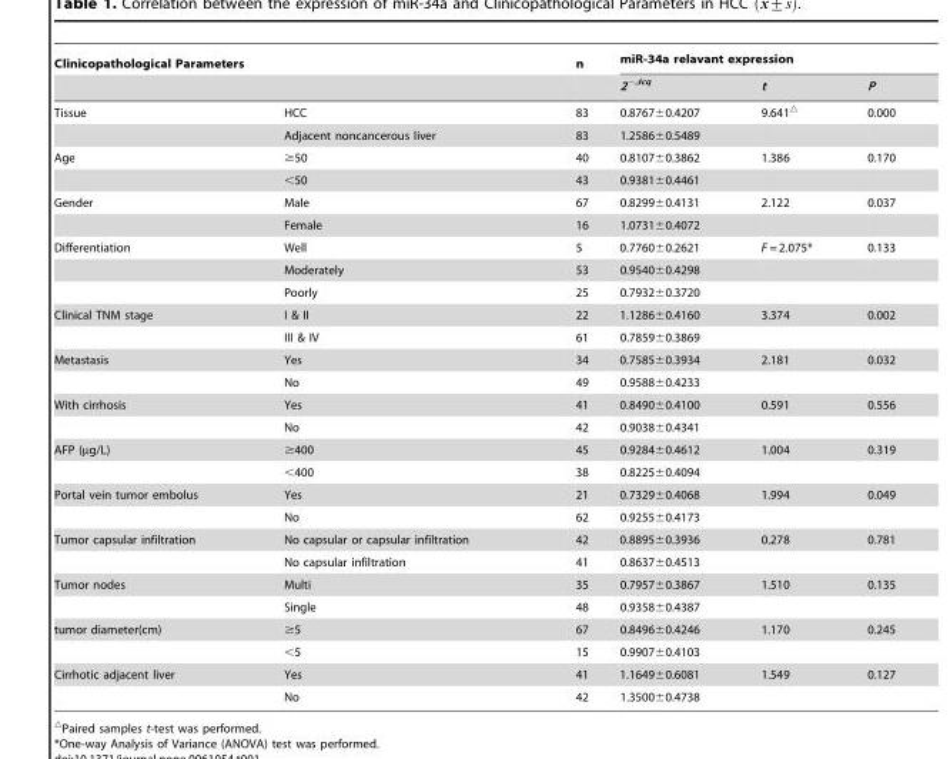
<table><thead><tr><td colspan="2">Clinicopathological Parameters</td><td rowspan="2">n</td><td colspan="3">miR-34a relavant expression</td></tr><tr><td></td><td></td><td>2<sup>−Δcq</sup></td><td>t</td><td>P</td></tr></thead><tbody><tr><td rowspan="2">Tissue</td><td>HCC</td><td>83</td><td>0.8767±0.4207</td><td>9.641▵</td><td>0.000</td></tr><tr><td>Adjacent noncancerous liver</td><td>83</td><td>1.2586±0.5489</td><td></td><td></td></tr><tr><td rowspan="2">Age</td><td>≥50</td><td>40</td><td>0.8107±0.3862</td><td>1.386</td><td>0.170</td></tr><tr><td>&lt;50</td><td>43</td><td>0.9381±0.4461</td><td></td><td></td></tr><tr><td rowspan="2">Gender</td><td>Male</td><td>67</td><td>0.8299±0.4131</td><td>2.122</td><td>0.037</td></tr><tr><td>Female</td><td>16</td><td>1.0731±0.4072</td><td></td><td></td></tr><tr><td rowspan="3">Differentiation</td><td>Well</td><td>5</td><td>0.7760±0.2621</td><td>F = 2.075*</td><td>0.133</td></tr><tr><td>Moderately</td><td>53</td><td>0.9540±0.4298</td><td></td><td></td></tr><tr><td>Poorly</td><td>25</td><td>0.7932±0.3720</td><td></td><td></td></tr><tr><td rowspan="2">Clinical TNM stage</td><td>I &amp; II</td><td>22</td><td>1.1286±0.4160</td><td>3.374</td><td>0.002</td></tr><tr><td>III &amp; IV</td><td>61</td><td>0.7859±0.3869</td><td></td><td></td></tr><tr><td rowspan="2">Metastasis</td><td>Yes</td><td>34</td><td>0.7585±0.3934</td><td>2.181</td><td>0.032</td></tr><tr><td>No</td><td>49</td><td>0.9588±0.4233</td><td></td><td></td></tr><tr><td rowspan="2">With cirrhosis</td><td>Yes</td><td>41</td><td>0.8490±0.4100</td><td>0.591</td><td>0.556</td></tr><tr><td>No</td><td>42</td><td>0.9038±0.4341</td><td></td><td></td></tr><tr><td rowspan="2">AFP (µg/L)</td><td>≥400</td><td>45</td><td>0.9284±0.4612</td><td>1.004</td><td>0.319</td></tr><tr><td>&lt;400</td><td>38</td><td>0.8225±0.4094</td><td></td><td></td></tr><tr><td rowspan="2">Portal vein tumor embolus</td><td>Yes</td><td>21</td><td>0.7329±0.4068</td><td>1.994</td><td>0.049</td></tr><tr><td>No</td><td>62</td><td>0.9255±0.4173</td><td></td><td></td></tr><tr><td rowspan="2">Tumor capsular infiltration</td><td>No capsular or capsular infiltration</td><td>42</td><td>0.8895±0.3936</td><td>0.278</td><td>0.781</td></tr><tr><td>No capsular infiltration</td><td>41</td><td>0.8637±0.4513</td><td></td><td></td></tr><tr><td rowspan="2">Tumor nodes</td><td>Multi</td><td>35</td><td>0.7957±0.3867</td><td>1.510</td><td>0.135</td></tr><tr><td>Single</td><td>48</td><td>0.9358±0.4387</td><td></td><td></td></tr><tr><td rowspan="2">tumor diameter(cm)</td><td>≥5</td><td>67</td><td>0.8496±0.4246</td><td>1.170</td><td>0.245</td></tr><tr><td>&lt;5</td><td>15</td><td>0.9907±0.4103</td><td></td><td></td></tr><tr><td rowspan="2">Cirrhotic adjacent liver</td><td>Yes</td><td>41</td><td>1.1649±0.6081</td><td>1.549</td><td>0.127</td></tr><tr><td>No</td><td>42</td><td>1.3500±0.4738</td><td></td><td></td></tr></tbody></table>